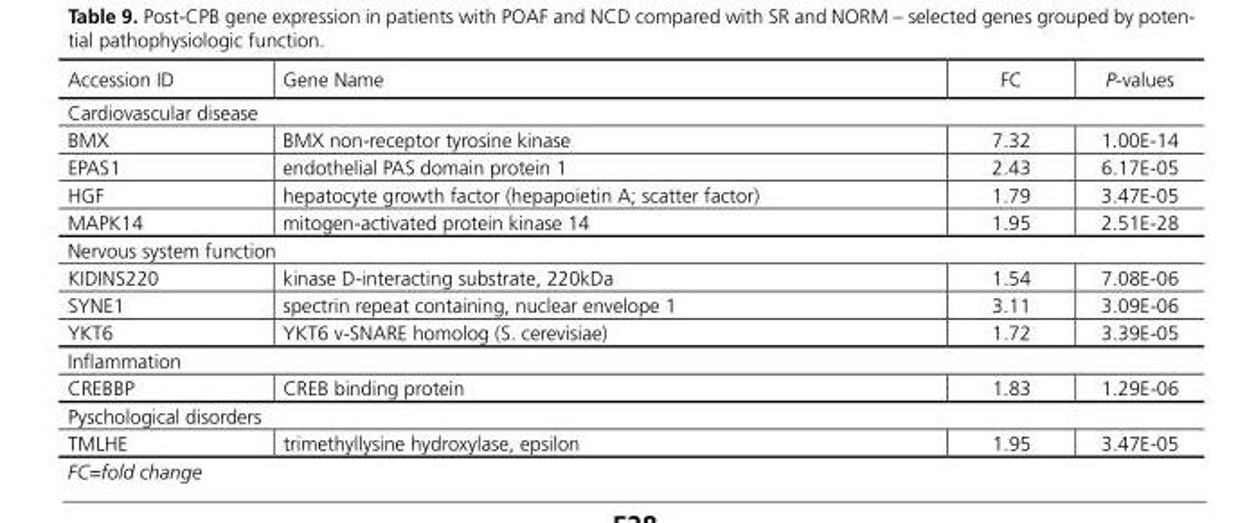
<table><thead><tr><td>Accession ID</td><td>Gene Name</td><td>FC</td><td>P-values</td></tr></thead><tbody><tr><td colspan="4">Cardiovascular disease</td></tr><tr><td>BMX</td><td>BMX non-receptor tyrosine kinase</td><td>7.32</td><td>1.00E-14</td></tr><tr><td>EPAS1</td><td>endothelial PAS domain protein 1</td><td>2.43</td><td>6.17E-05</td></tr><tr><td>HGF</td><td>hepatocyte growth factor (hepapoietin A; scatter factor)</td><td>1.79</td><td>3.47E-05</td></tr><tr><td>MAPK14</td><td>mitogen-activated protein kinase 14</td><td>1.95</td><td>2.51E-28</td></tr><tr><td colspan="4">Nervous system function</td></tr><tr><td>KIDINS220</td><td>kinase D-interacting substrate, 220kDa</td><td>1.54</td><td>7.08E-06</td></tr><tr><td>SYNE1</td><td>spectrin repeat containing, nuclear envelope 1</td><td>3.11</td><td>3.09E-06</td></tr><tr><td>YKT6</td><td>YKT6 v-SNARE homolog (S. cerevisiae)</td><td>1.72</td><td>3.39E-05</td></tr><tr><td colspan="4">Inflammation</td></tr><tr><td>CREBBP</td><td>CREB binding protein</td><td>1.83</td><td>1.29E-06</td></tr><tr><td colspan="4">Pyschological disorders</td></tr><tr><td>TMLHE</td><td>trimethyllysine hydroxylase, epsilon</td><td>1.95</td><td>3.47E-05</td></tr></tbody></table>